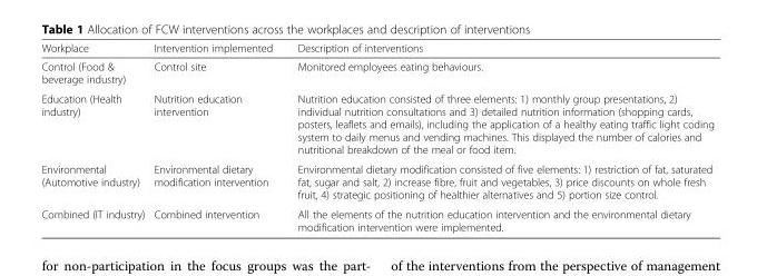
<table><thead><tr><td>Workplace</td><td>Intervention implemented</td><td>Description of interventions</td></tr></thead><tbody><tr><td>Control (Food &amp; beverage industry)</td><td>Control site</td><td>Monitored employees eating behaviours.</td></tr><tr><td>Education (Health industry)</td><td>Nutrition education intervention</td><td>Nutrition education consisted of three elements: 1) monthly group presentations, 2) individual nutrition consultations and 3) detailed nutrition information (shopping cards, posters, leaflets and emails), including the application of a healthy eating traffic light coding system to daily menus and vending machines. This displayed the number of calories and nutritional breakdown of the meal or food item.</td></tr><tr><td>Environmental (Automotive industry)</td><td>Environmental dietary modification intervention</td><td>Environmental dietary modification consisted of five elements: 1) restriction of fat, saturated fat, sugar and salt, 2) increase fibre, fruit and vegetables, 3) price discounts on whole fresh fruit, 4) strategic positioning of healthier alternatives and 5) portion size control.</td></tr><tr><td>Combined (IT industry)</td><td>Combined intervention</td><td>All the elements of the nutrition education intervention and the environmental dietary modification intervention were implemented.</td></tr></tbody></table>